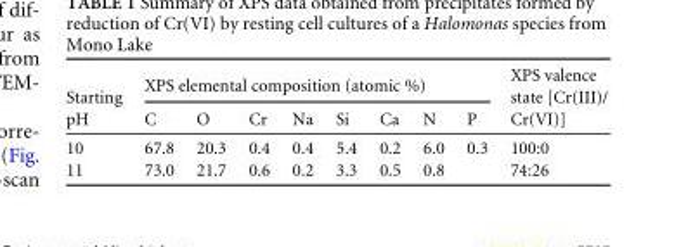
<table><thead><tr><td rowspan="2">Starting pH</td><td colspan="8">XPS elemental composition (atomic %)</td><td rowspan="2">XPS valence state [Cr(III)/ Cr(VI)]</td></tr><tr><td>C</td><td>O</td><td>Cr</td><td>Na</td><td>Si</td><td>Ca</td><td>N</td><td>P</td></tr></thead><tbody><tr><td>10</td><td>67.8</td><td>20.3</td><td>0.4</td><td>0.4</td><td>5.4</td><td>0.2</td><td>6.0</td><td>0.3</td><td>100:0</td></tr><tr><td>11</td><td>73.0</td><td>21.7</td><td>0.6</td><td>0.2</td><td>3.3</td><td>0.5</td><td>0.8</td><td></td><td>74:26</td></tr></tbody></table>